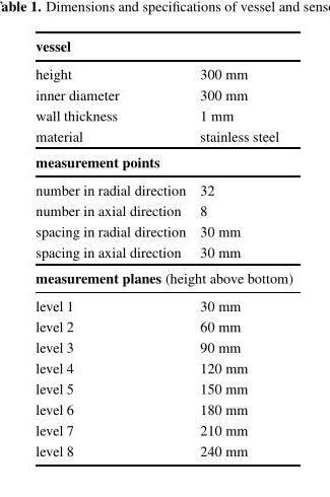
<table><thead><tr><td colspan="2">vessel</td></tr><tr><td>height</td><td>300 mm</td></tr></thead><tbody><tr><td>inner diameter</td><td>300 mm</td></tr><tr><td>wall thickness</td><td>1 mm</td></tr><tr><td>material</td><td>stainless steel</td></tr><tr><td colspan="2">measurement points</td></tr><tr><td>number in radial direction</td><td>32</td></tr><tr><td>number in axial direction</td><td>8</td></tr><tr><td>spacing in radial direction</td><td>30 mm</td></tr><tr><td>spacing in axial direction</td><td>30 mm</td></tr><tr><td colspan="2">measurement planes (height above bottom)</td></tr><tr><td>level 1</td><td>30 mm</td></tr><tr><td>level 2</td><td>60 mm</td></tr><tr><td>level 3</td><td>90 mm</td></tr><tr><td>level 4</td><td>120 mm</td></tr><tr><td>level 5</td><td>150 mm</td></tr><tr><td>level 6</td><td>180 mm</td></tr><tr><td>level 7</td><td>210 mm</td></tr><tr><td>level 8</td><td>240 mm</td></tr></tbody></table>